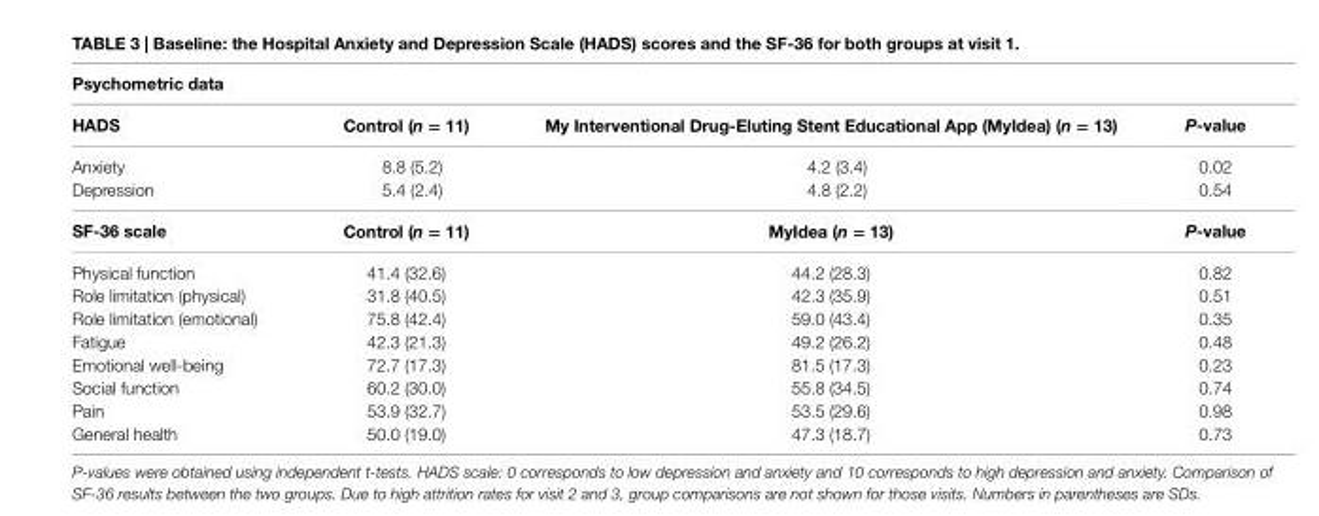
<table><thead><tr><td colspan="4">Psychometric data</td></tr><tr><td>haDs</td><td>control (n = 11)</td><td>My interventional Drug-eluting stent educational app (Myidea) (n = 13)</td><td>P-value</td></tr></thead><tbody><tr><td>Anxiety</td><td>8.8 (5.2)</td><td>4.2 (3.4)</td><td>0.02</td></tr><tr><td>Depression</td><td>5.4 (2.4)</td><td>4.8 (2.2)</td><td>0.54</td></tr><tr><td>sF-36 scale</td><td>control (n = 11)</td><td>Myidea (n = 13)</td><td>P-value</td></tr><tr><td>Physical function</td><td>41.4 (32.6)</td><td>44.2 (28.3)</td><td>0.82</td></tr><tr><td>Role limitation (physical)</td><td>31.8 (40.5)</td><td>42.3 (35.9)</td><td>0.51</td></tr><tr><td>Role limitation (emotional)</td><td>75.8 (42.4)</td><td>59.0 (43.4)</td><td>0.35</td></tr><tr><td>Fatigue</td><td>42.3 (21.3)</td><td>49.2 (26.2)</td><td>0.48</td></tr><tr><td>Emotional well-being</td><td>72.7 (17.3)</td><td>81.5 (17.3)</td><td>0.23</td></tr><tr><td>Social function</td><td>60.2 (30.0)</td><td>55.8 (34.5)</td><td>0.74</td></tr><tr><td>Pain</td><td>53.9 (32.7)</td><td>53.5 (29.6)</td><td>0.98</td></tr><tr><td>General health</td><td>50.0 (19.0)</td><td>47.3 (18.7)</td><td>0.73</td></tr></tbody></table>